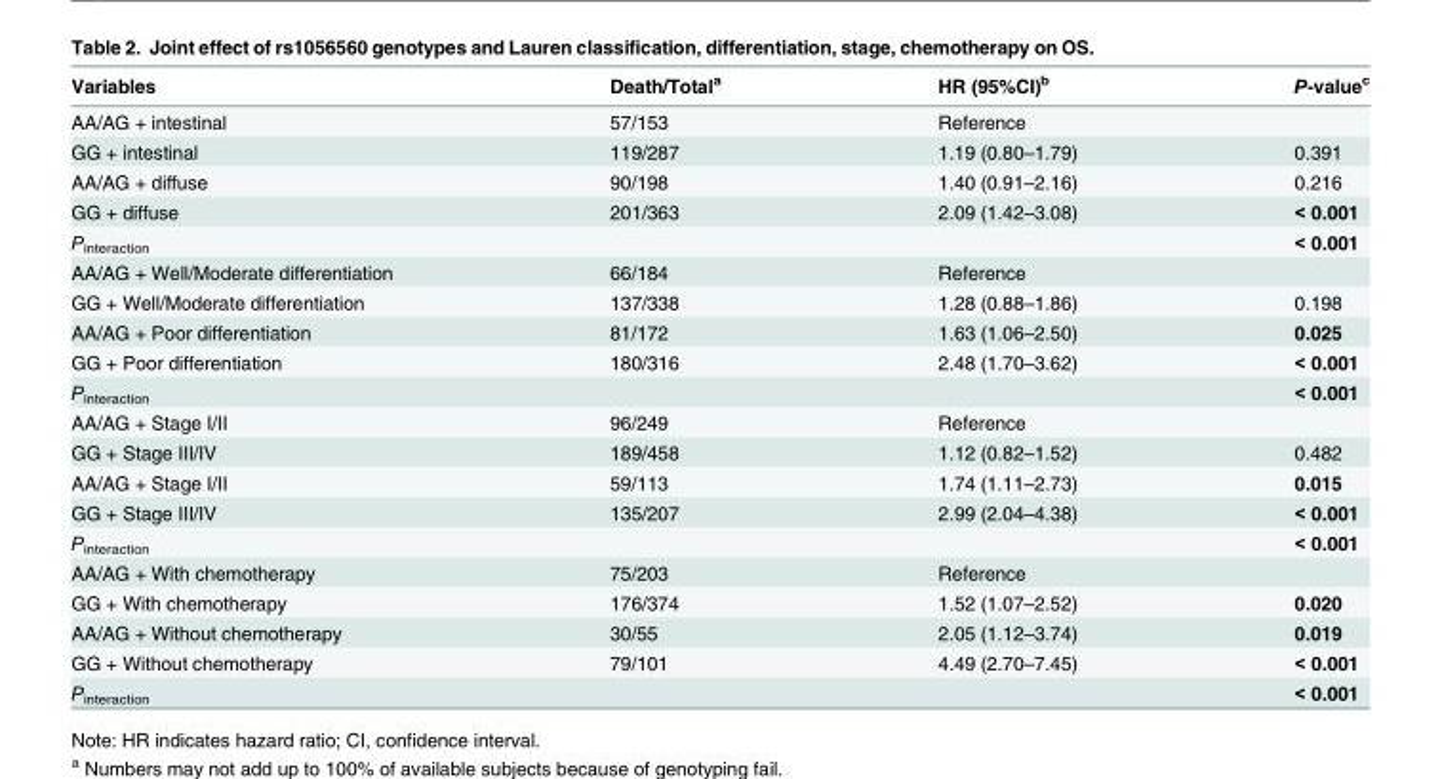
<table><thead><tr><td>Variables</td><td>Death/Total<sup>a</sup></td><td>HR (95%CI)<sup>b</sup></td><td>P-value<sup>c</sup></td></tr></thead><tbody><tr><td>AA/AG + intestinal</td><td>57/153</td><td>Reference</td><td></td></tr><tr><td>GG + intestinal</td><td>119/287</td><td>1.19 (0.80–1.79)</td><td>0.391</td></tr><tr><td>AA/AG + diffuse</td><td>90/198</td><td>1.40 (0.91–2.16)</td><td>0.216</td></tr><tr><td>GG + diffuse</td><td>201/363</td><td>2.09 (1.42–3.08)</td><td>&lt; 0.001</td></tr><tr><td>P<sub>interaction</sub></td><td></td><td></td><td>&lt; 0.001</td></tr><tr><td>AA/AG + Well/Moderate differentiation</td><td>66/184</td><td>Reference</td><td></td></tr><tr><td>GG + Well/Moderate differentiation</td><td>137/338</td><td>1.28 (0.88–1.86)</td><td>0.198</td></tr><tr><td>AA/AG + Poor differentiation</td><td>81/172</td><td>1.63 (1.06–2.50)</td><td>0.025</td></tr><tr><td>GG + Poor differentiation</td><td>180/316</td><td>2.48 (1.70–3.62)</td><td>&lt; 0.001</td></tr><tr><td>P<sub>interaction</sub></td><td></td><td></td><td>&lt; 0.001</td></tr><tr><td>AA/AG + Stage I/II</td><td>96/249</td><td>Reference</td><td></td></tr><tr><td>GG + Stage III/IV</td><td>189/458</td><td>1.12 (0.82–1.52)</td><td>0.482</td></tr><tr><td>AA/AG + Stage I/II</td><td>59/113</td><td>1.74 (1.11–2.73)</td><td>0.015</td></tr><tr><td>GG + Stage III/IV</td><td>135/207</td><td>2.99 (2.04–4.38)</td><td>&lt; 0.001</td></tr><tr><td>P<sub>interaction</sub></td><td></td><td></td><td>&lt; 0.001</td></tr><tr><td>AA/AG + With chemotherapy</td><td>75/203</td><td>Reference</td><td></td></tr><tr><td>GG + With chemotherapy</td><td>176/374</td><td>1.52 (1.07–2.52)</td><td>0.020</td></tr><tr><td>AA/AG + Without chemotherapy</td><td>30/55</td><td>2.05 (1.12–3.74)</td><td>0.019</td></tr><tr><td>GG + Without chemotherapy</td><td>79/101</td><td>4.49 (2.70–7.45)</td><td>&lt; 0.001</td></tr><tr><td>P<sub>interaction</sub></td><td></td><td></td><td>&lt; 0.001</td></tr></tbody></table>